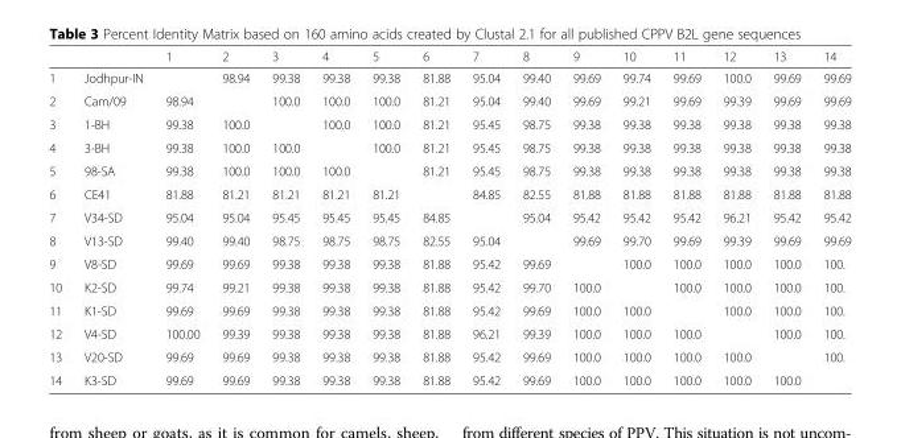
<table><thead><tr><td></td><td></td><td>1</td><td>2</td><td>3</td><td>4</td><td>5</td><td>6</td><td>7</td><td>8</td><td>9</td><td>10</td><td>11</td><td>12</td><td>13</td><td>14</td></tr></thead><tbody><tr><td>1</td><td>Jodhpur-IN</td><td></td><td>98.94</td><td>99.38</td><td>99.38</td><td>99.38</td><td>81.88</td><td>95.04</td><td>99.40</td><td>99.69</td><td>99.74</td><td>99.69</td><td>100.0</td><td>99.69</td><td>99.69</td></tr><tr><td>2</td><td>Cam/09</td><td>98.94</td><td></td><td>100.0</td><td>100.0</td><td>100.0</td><td>81.21</td><td>95.04</td><td>99.40</td><td>99.69</td><td>99.21</td><td>99.69</td><td>99.39</td><td>99.69</td><td>99.69</td></tr><tr><td>3</td><td>1-BH</td><td>99.38</td><td>100.0</td><td></td><td>100.0</td><td>100.0</td><td>81.21</td><td>95.45</td><td>98.75</td><td>99.38</td><td>99.38</td><td>99.38</td><td>99.38</td><td>99.38</td><td>99.38</td></tr><tr><td>4</td><td>3-BH</td><td>99.38</td><td>100.0</td><td>100.0</td><td></td><td>100.0</td><td>81.21</td><td>95.45</td><td>98.75</td><td>99.38</td><td>99.38</td><td>99.38</td><td>99.38</td><td>99.38</td><td>99.38</td></tr><tr><td>5</td><td>98-SA</td><td>99.38</td><td>100.0</td><td>100.0</td><td>100.0</td><td></td><td>81.21</td><td>95.45</td><td>98.75</td><td>99.38</td><td>99.38</td><td>99.38</td><td>99.38</td><td>99.38</td><td>99.38</td></tr><tr><td>6</td><td>CE41</td><td>81.88</td><td>81.21</td><td>81.21</td><td>81.21</td><td>81.21</td><td></td><td>84.85</td><td>82.55</td><td>81.88</td><td>81.88</td><td>81.88</td><td>81.88</td><td>81.88</td><td>81.88</td></tr><tr><td>7</td><td>V34-SD</td><td>95.04</td><td>95.04</td><td>95.45</td><td>95.45</td><td>95.45</td><td>84.85</td><td></td><td>95.04</td><td>95.42</td><td>95.42</td><td>95.42</td><td>96.21</td><td>95.42</td><td>95.42</td></tr><tr><td>8</td><td>V13-SD</td><td>99.40</td><td>99.40</td><td>98.75</td><td>98.75</td><td>98.75</td><td>82.55</td><td>95.04</td><td></td><td>99.69</td><td>99.70</td><td>99.69</td><td>99.39</td><td>99.69</td><td>99.69</td></tr><tr><td>9</td><td>V8-SD</td><td>99.69</td><td>99.69</td><td>99.38</td><td>99.38</td><td>99.38</td><td>81.88</td><td>95.42</td><td>99.69</td><td></td><td>100.0</td><td>100.0</td><td>100.0</td><td>100.0</td><td>100.</td></tr><tr><td>10</td><td>K2-SD</td><td>99.74</td><td>99.21</td><td>99.38</td><td>99.38</td><td>99.38</td><td>81.88</td><td>95.42</td><td>99.70</td><td>100.0</td><td></td><td>100.0</td><td>100.0</td><td>100.0</td><td>100.</td></tr><tr><td>11</td><td>K1-SD</td><td>99.69</td><td>99.69</td><td>99.38</td><td>99.38</td><td>99.38</td><td>81.88</td><td>95.42</td><td>99.69</td><td>100.0</td><td>100.0</td><td></td><td>100.0</td><td>100.0</td><td>100.</td></tr><tr><td>12</td><td>V4-SD</td><td>100.00</td><td>99.39</td><td>99.38</td><td>99.38</td><td>99.38</td><td>81.88</td><td>96.21</td><td>99.39</td><td>100.0</td><td>100.0</td><td>100.0</td><td></td><td>100.0</td><td>100.</td></tr><tr><td>13</td><td>V20-SD</td><td>99.69</td><td>99.69</td><td>99.38</td><td>99.38</td><td>99.38</td><td>81.88</td><td>95.42</td><td>99.69</td><td>100.0</td><td>100.0</td><td>100.0</td><td>100.0</td><td></td><td>100.</td></tr><tr><td>14</td><td>K3-SD</td><td>99.69</td><td>99.69</td><td>99.38</td><td>99.38</td><td>99.38</td><td>81.88</td><td>95.42</td><td>99.69</td><td>100.0</td><td>100.0</td><td>100.0</td><td>100.0</td><td>100.0</td><td></td></tr></tbody></table>